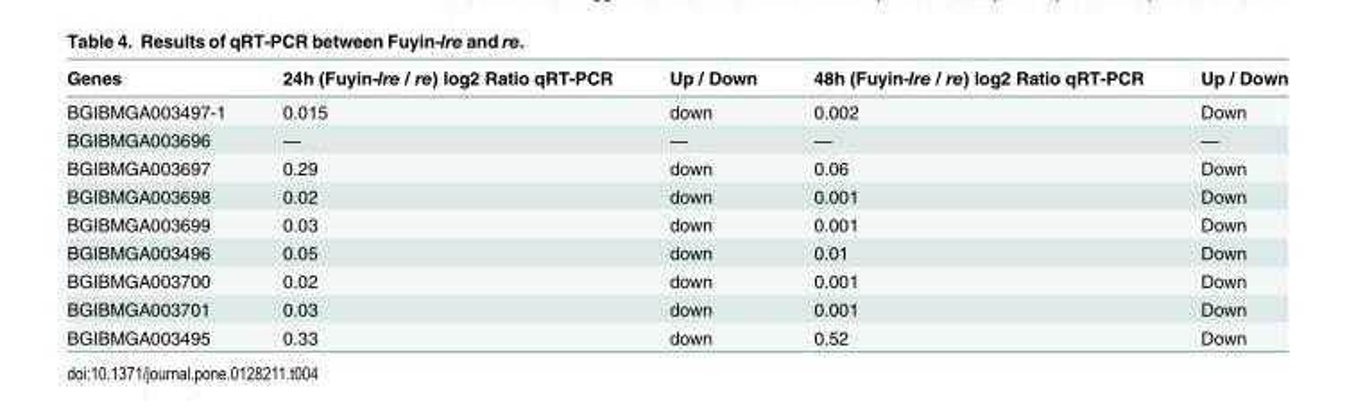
<table><thead><tr><td>Genes</td><td>24h (Fuyin-lre / re) log2 Ratio qRT-PCR</td><td>Up / Down</td><td>48h (Fuyin-lre / re) log2 Ratio qRT-PCR</td><td>Up / Down</td></tr></thead><tbody><tr><td>BGIBMGA003497-1</td><td>0.015</td><td>down</td><td>0.002</td><td>Down</td></tr><tr><td>BGIBMGA003696</td><td>—</td><td>—</td><td>—</td><td>—</td></tr><tr><td>BGIBMGA003697</td><td>0.29</td><td>down</td><td>0.06</td><td>Down</td></tr><tr><td>BGIBMGA003698</td><td>0.02</td><td>down</td><td>0.001</td><td>Down</td></tr><tr><td>BGIBMGA003699</td><td>0.03</td><td>down</td><td>0.001</td><td>Down</td></tr><tr><td>BGIBMGA003496</td><td>0.05</td><td>down</td><td>0.01</td><td>Down</td></tr><tr><td>BGIBMGA003700</td><td>0.02</td><td>down</td><td>0.001</td><td>Down</td></tr><tr><td>BGIBMGA003701</td><td>0.03</td><td>down</td><td>0.001</td><td>Down</td></tr><tr><td>BGIBMGA003495</td><td>0.33</td><td>down</td><td>0.52</td><td>Down</td></tr></tbody></table>